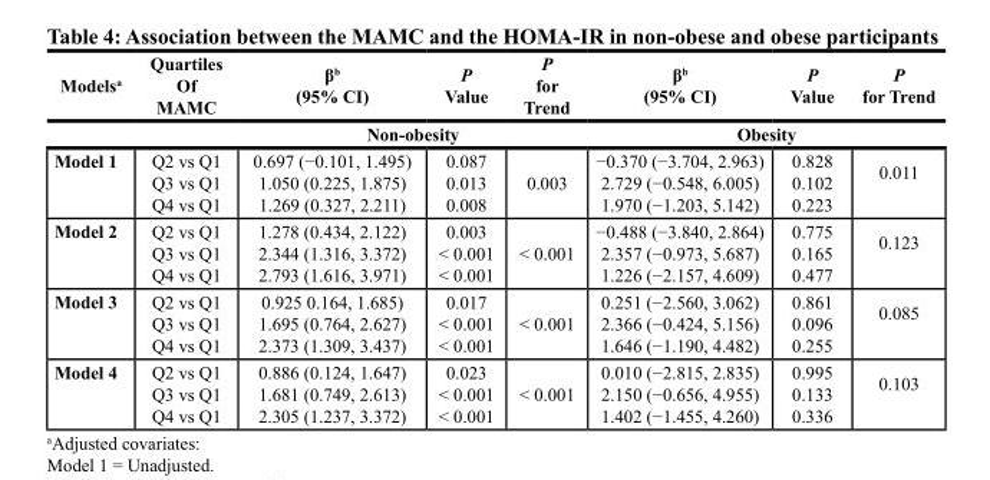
<table><thead><tr><td rowspan="2">Models<sup>a</sup></td><td rowspan="2">Quartiles Of MAMC</td><td>β<sup>b</sup> (95% CI)</td><td>P Value</td><td>P for Trend</td><td>β<sup>b</sup> (95% CI)</td><td>P Value</td><td>P for Trend</td></tr><tr><td colspan="3">Non-obesity</td><td colspan="3">Obesity</td></tr></thead><tbody><tr><td>Model 1</td><td>Q2 vs Q1 Q3 vs Q1 Q4 vs Q1</td><td>0.697 (−0.101, 1.495) 1.050 (0.225, 1.875) 1.269 (0.327, 2.211)</td><td>0.087 0.013 0.008</td><td>0.003</td><td>−0.370 (−3.704, 2.963) 2.729 (−0.548, 6.005) 1.970 (−1.203, 5.142)</td><td>0.828 0.102 0.223</td><td>0.011</td></tr><tr><td>Model 2</td><td>Q2 vs Q1 Q3 vs Q1 Q4 vs Q1</td><td>1.278 (0.434, 2.122) 2.344 (1.316, 3.372) 2.793 (1.616, 3.971)</td><td>0.003 &lt; 0.001 &lt; 0.001</td><td>&lt; 0.001</td><td>−0.488 (−3.840, 2.864) 2.357 (−0.973, 5.687) 1.226 (−2.157, 4.609)</td><td>0.775 0.165 0.477</td><td>0.123</td></tr><tr><td>Model 3</td><td>Q2 vs Q1 Q3 vs Q1 Q4 vs Q1</td><td>0.925 0.164, 1.685) 1.695 (0.764, 2.627) 2.373 (1.309, 3.437)</td><td>0.017 &lt; 0.001 &lt; 0.001</td><td>&lt; 0.001</td><td>0.251 (−2.560, 3.062) 2.366 (−0.424, 5.156) 1.646 (−1.190, 4.482)</td><td>0.861 0.096 0.255</td><td>0.085</td></tr><tr><td>Model 4</td><td>Q2 vs Q1 Q3 vs Q1 Q4 vs Q1</td><td>0.886 (0.124, 1.647) 1.681 (0.749, 2.613) 2.305 (1.237, 3.372)</td><td>0.023 &lt; 0.001 &lt; 0.001</td><td>&lt; 0.001</td><td>0.010 (−2.815, 2.835) 2.150 (−0.656, 4.955) 1.402 (−1.455, 4.260)</td><td>0.995 0.133 0.336</td><td>0.103</td></tr></tbody></table>